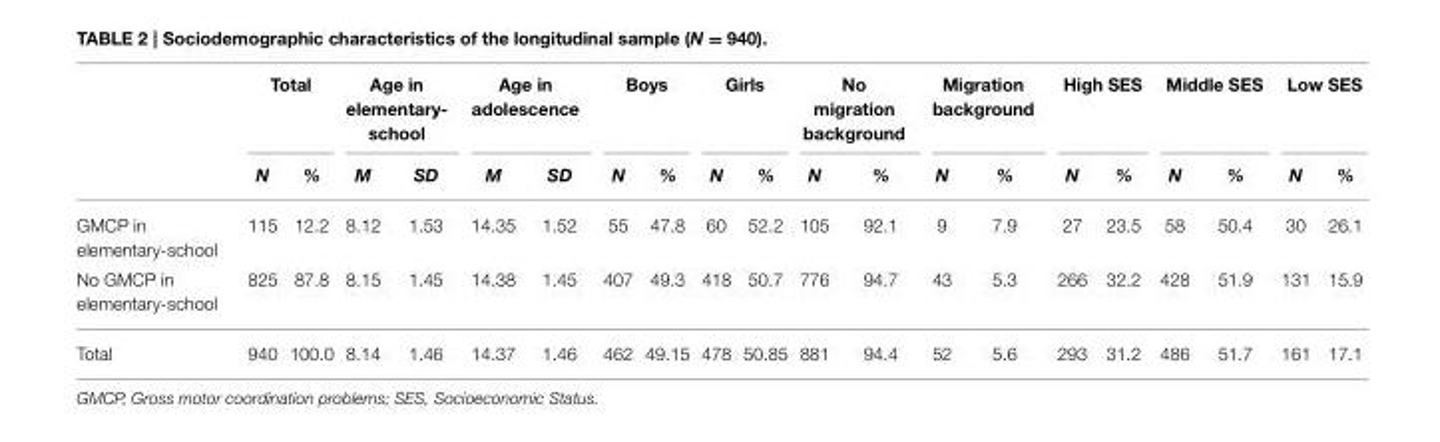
<table><thead><tr><td rowspan="2"></td><td colspan="2">Total</td><td colspan="2">Age in elementary- school</td><td colspan="2">Age in adolescence</td><td colspan="2">Boys</td><td colspan="2">Girls</td><td colspan="2">No migration background</td><td colspan="2">Migration background</td><td colspan="2">High SES</td><td colspan="2">Middle SES</td><td colspan="2">Low SES</td></tr><tr><td>N</td><td>%</td><td>M</td><td>SD</td><td>M</td><td>SD</td><td>N</td><td>%</td><td>N</td><td>%</td><td>N</td><td>%</td><td>N</td><td>%</td><td>N</td><td>%</td><td>N</td><td>%</td><td>N</td><td>%</td></tr></thead><tbody><tr><td>GMCP in elementary-school</td><td>115</td><td>12.2</td><td>8.12</td><td>1.53</td><td>14.35</td><td>1.52</td><td>55</td><td>47.8</td><td>60</td><td>52.2</td><td>105</td><td>92.1</td><td>9</td><td>7.9</td><td>27</td><td>23.5</td><td>58</td><td>50.4</td><td>30</td><td>26.1</td></tr><tr><td>No GMCP in elementary-school</td><td>825</td><td>87.8</td><td>8.15</td><td>1.45</td><td>14.38</td><td>1.45</td><td>407</td><td>49.3</td><td>418</td><td>50.7</td><td>776</td><td>94.7</td><td>43</td><td>5.3</td><td>266</td><td>32.2</td><td>428</td><td>51.9</td><td>131</td><td>15.9</td></tr><tr><td>Total</td><td>940</td><td>100.0</td><td>8.14</td><td>1.46</td><td>14.37</td><td>1.46</td><td>462</td><td>49.15</td><td>478</td><td>50.85</td><td>881</td><td>94.4</td><td>52</td><td>5.6</td><td>293</td><td>31.2</td><td>486</td><td>51.7</td><td>161</td><td>17.1</td></tr></tbody></table>